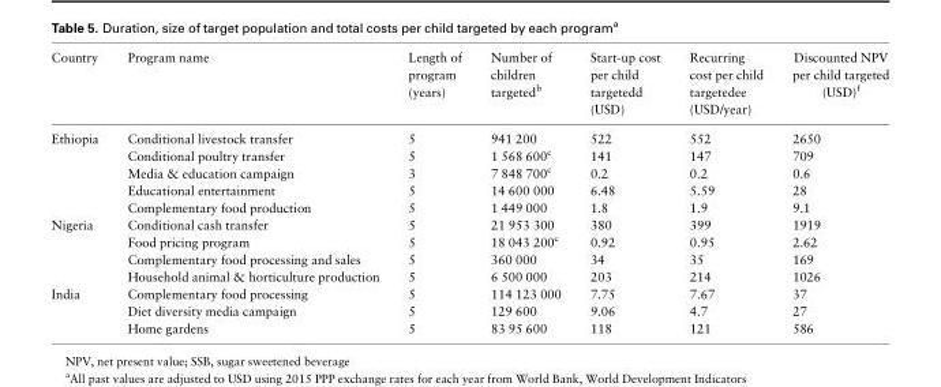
<table><thead><tr><td>Country</td><td>Program name</td><td>Length of program (years)</td><td>Number of children targeted<sup>b</sup></td><td>Start-up cost per child targetedd (USD)</td><td>Recurring cost per child targetedee (USD/year)</td><td>Discounted NPV per child targeted (USD)<sup>f</sup></td></tr></thead><tbody><tr><td rowspan="5">Ethiopia</td><td>Conditional livestock transfer</td><td>5</td><td>941 200</td><td>522</td><td>552</td><td>2650</td></tr><tr><td>Conditional poultry transfer</td><td>5</td><td>1 568 600<sup>c</sup></td><td>141</td><td>147</td><td>709</td></tr><tr><td>Media &amp; education campaign</td><td>3</td><td>7 848 700<sup>c</sup></td><td>0.2</td><td>0.2</td><td>0.6</td></tr><tr><td>Educational entertainment</td><td>5</td><td>14 600 000</td><td>6.48</td><td>5.59</td><td>28</td></tr><tr><td>Complementary food production</td><td>5</td><td>1 449 000</td><td>1.8</td><td>1.9</td><td>9.1</td></tr><tr><td rowspan="4">Nigeria</td><td>Conditional cash transfer</td><td>5</td><td>21 953 300</td><td>380</td><td>399</td><td>1919</td></tr><tr><td>Food pricing program</td><td>5</td><td>18 043 200<sup>c</sup></td><td>0.92</td><td>0.95</td><td>2.62</td></tr><tr><td>Complementary food processing and sales</td><td>5</td><td>360 000</td><td>34</td><td>35</td><td>169</td></tr><tr><td>Household animal &amp; horticulture production</td><td>5</td><td>6 500 000</td><td>203</td><td>214</td><td>1026</td></tr><tr><td rowspan="3">India</td><td>Complementary food processing</td><td>5</td><td>114 123 000</td><td>7.75</td><td>7.67</td><td>37</td></tr><tr><td>Diet diversity media campaign</td><td>5</td><td>129 600</td><td>9.06</td><td>4.7</td><td>27</td></tr><tr><td>Home gardens</td><td>5</td><td>83 95 600</td><td>118</td><td>121</td><td>586</td></tr></tbody></table>